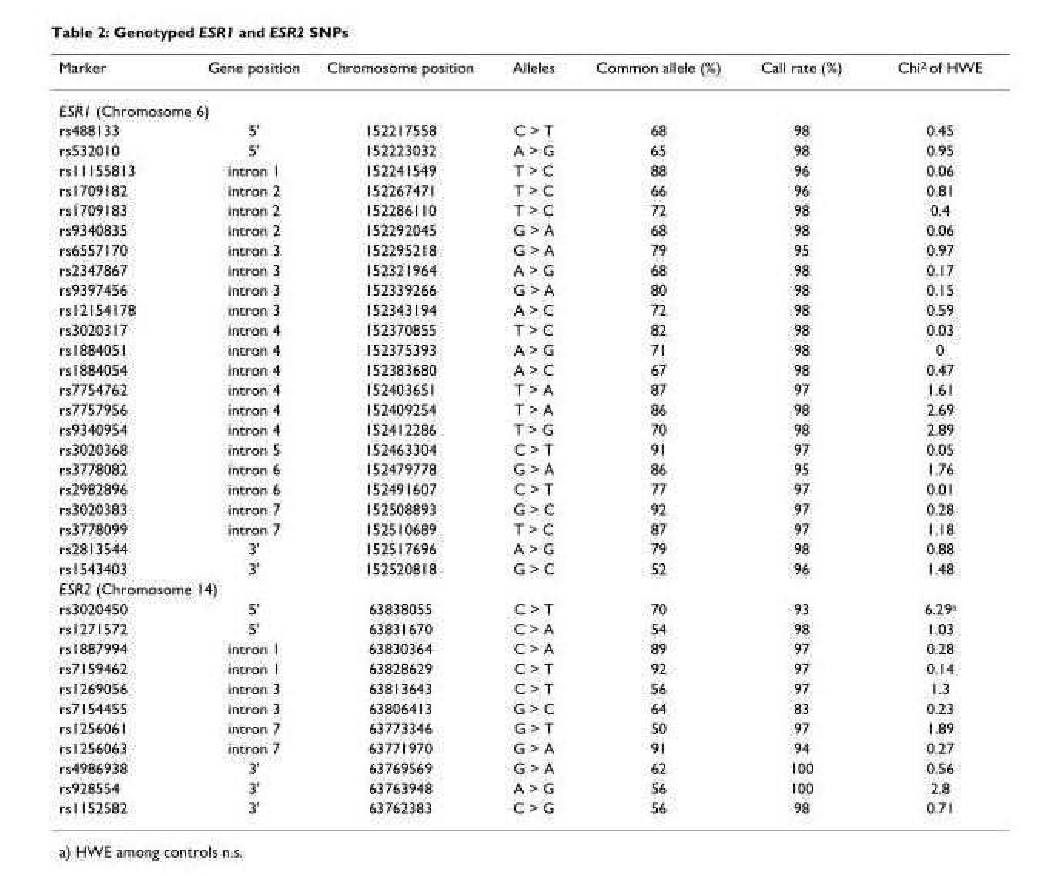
<table><thead><tr><td>Marker</td><td>Gene position</td><td>Chromosome position</td><td>Alleles</td><td>Common allele (%)</td><td>Call rate (%)</td><td>Chi<sup>2</sup> of HWE</td></tr></thead><tbody><tr><td colspan="7">ESR1 (Chromosome 6)</td></tr><tr><td>rs488133</td><td>5&#x27;</td><td>152217558</td><td>C &gt; T</td><td>68</td><td>98</td><td>0.45</td></tr><tr><td>rs532010</td><td>5&#x27;</td><td>152223032</td><td>A &gt; G</td><td>65</td><td>98</td><td>0.95</td></tr><tr><td>rs11155813</td><td>intron 1</td><td>152241549</td><td>T &gt; C</td><td>88</td><td>96</td><td>0.06</td></tr><tr><td>rs1709182</td><td>intron 2</td><td>152267471</td><td>T &gt; C</td><td>66</td><td>96</td><td>0.81</td></tr><tr><td>rs1709183</td><td>intron 2</td><td>152286110</td><td>T &gt; C</td><td>72</td><td>98</td><td>0.4</td></tr><tr><td>rs9340835</td><td>intron 2</td><td>152292045</td><td>G &gt; A</td><td>68</td><td>98</td><td>0.06</td></tr><tr><td>rs6557170</td><td>intron 3</td><td>152295218</td><td>G &gt; A</td><td>79</td><td>95</td><td>0.97</td></tr><tr><td>rs2347867</td><td>intron 3</td><td>152321964</td><td>A &gt; G</td><td>68</td><td>98</td><td>0.17</td></tr><tr><td>rs9397456</td><td>intron 3</td><td>152339266</td><td>G &gt; A</td><td>80</td><td>98</td><td>0.15</td></tr><tr><td>rs12154178</td><td>intron 3</td><td>152343194</td><td>A &gt; C</td><td>72</td><td>98</td><td>0.59</td></tr><tr><td>rs3020317</td><td>intron 4</td><td>152370855</td><td>T &gt; C</td><td>82</td><td>98</td><td>0.03</td></tr><tr><td>rs1884051</td><td>intron 4</td><td>152375393</td><td>A &gt; G</td><td>71</td><td>98</td><td>0</td></tr><tr><td>rs1884054</td><td>intron 4</td><td>152383680</td><td>A &gt; C</td><td>67</td><td>98</td><td>0.47</td></tr><tr><td>rs7754762</td><td>intron 4</td><td>152403651</td><td>T &gt; A</td><td>87</td><td>97</td><td>1.61</td></tr><tr><td>rs7757956</td><td>intron 4</td><td>152409254</td><td>T &gt; A</td><td>86</td><td>98</td><td>2.69</td></tr><tr><td>rs9340954</td><td>intron 4</td><td>152412286</td><td>T &gt; G</td><td>70</td><td>98</td><td>2.89</td></tr><tr><td>rs3020368</td><td>intron 5</td><td>152463304</td><td>C &gt; T</td><td>91</td><td>97</td><td>0.05</td></tr><tr><td>rs3778082</td><td>intron 6</td><td>152479778</td><td>G &gt; A</td><td>86</td><td>95</td><td>1.76</td></tr><tr><td>rs2982896</td><td>intron 6</td><td>152491607</td><td>C &gt; T</td><td>77</td><td>97</td><td>0.01</td></tr><tr><td>rs3020383</td><td>intron 7</td><td>152508893</td><td>G &gt; C</td><td>92</td><td>97</td><td>0.28</td></tr><tr><td>rs3778099</td><td>intron 7</td><td>152510689</td><td>T &gt; C</td><td>87</td><td>97</td><td>1.18</td></tr><tr><td>rs2813544</td><td>3&#x27;</td><td>152517696</td><td>A &gt; G</td><td>79</td><td>98</td><td>0.88</td></tr><tr><td>rs1543403</td><td>3&#x27;</td><td>152520818</td><td>G &gt; C</td><td>52</td><td>96</td><td>1.48</td></tr><tr><td colspan="7">ESR2 (Chromosome 14)</td></tr><tr><td>rs3020450</td><td>5&#x27;</td><td>63838055</td><td>C &gt; T</td><td>70</td><td>93</td><td>6.29<sup>a</sup></td></tr><tr><td>rs1271572</td><td>5&#x27;</td><td>63831670</td><td>C &gt; A</td><td>54</td><td>98</td><td>1.03</td></tr><tr><td>rs1887994</td><td>intron 1</td><td>63830364</td><td>C &gt; A</td><td>89</td><td>97</td><td>0.28</td></tr><tr><td>rs7159462</td><td>intron 1</td><td>63828629</td><td>C &gt; T</td><td>92</td><td>97</td><td>0.14</td></tr><tr><td>rs1269056</td><td>intron 3</td><td>63813643</td><td>C &gt; T</td><td>56</td><td>97</td><td>1.3</td></tr><tr><td>rs7154455</td><td>intron 3</td><td>63806413</td><td>G &gt; C</td><td>64</td><td>83</td><td>0.23</td></tr><tr><td>rs1256061</td><td>intron 7</td><td>63773346</td><td>G &gt; T</td><td>50</td><td>97</td><td>1.89</td></tr><tr><td>rs1256063</td><td>intron 7</td><td>63771970</td><td>G &gt; A</td><td>91</td><td>94</td><td>0.27</td></tr><tr><td>rs4986938</td><td>3&#x27;</td><td>63769569</td><td>G &gt; A</td><td>62</td><td>100</td><td>0.56</td></tr><tr><td>rs928554</td><td>3&#x27;</td><td>63763948</td><td>A &gt; G</td><td>56</td><td>100</td><td>2.8</td></tr><tr><td>rs1152582</td><td>3&#x27;</td><td>63762383</td><td>C &gt; G</td><td>56</td><td>98</td><td>0.71</td></tr></tbody></table>